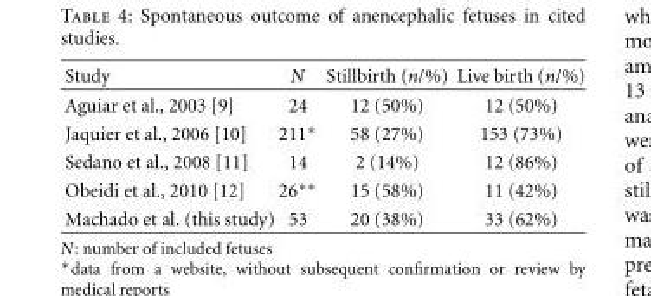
<table><thead><tr><td>Study</td><td>N</td><td>Stillbirth (n/%)</td><td>Live birth (n/%)</td></tr></thead><tbody><tr><td>Aguiar et al., 2003 [9]</td><td>24</td><td>12 (50%)</td><td>12 (50%)</td></tr><tr><td>Jaquier et al., 2006 [10]</td><td>211∗</td><td>58 (27%)</td><td>153 (73%)</td></tr><tr><td>Sedano et al., 2008 [11]</td><td>14</td><td>2 (14%)</td><td>12 (86%)</td></tr><tr><td>Obeidi et al., 2010 [12]</td><td>26∗∗</td><td>15 (58%)</td><td>11 (42%)</td></tr><tr><td>Machado et al. (this study)</td><td>53</td><td>20 (38%)</td><td>33 (62%)</td></tr></tbody></table>